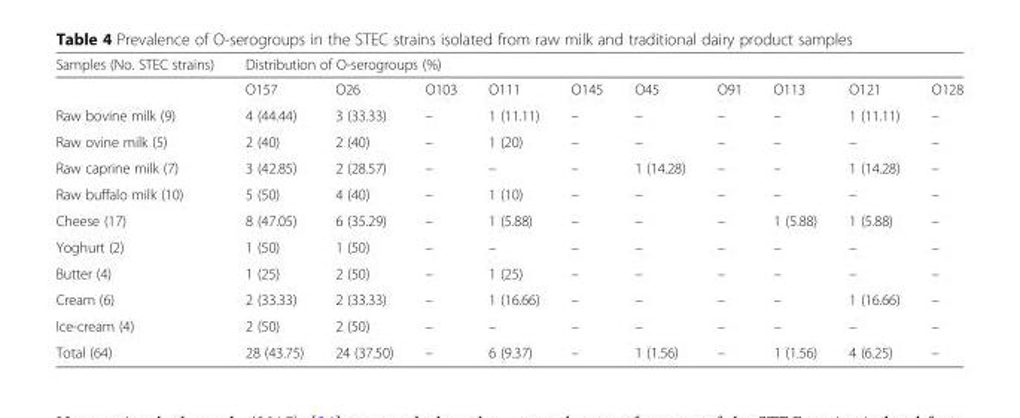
<table><thead><tr><td rowspan="2">Samples (No. STEC strains)</td><td colspan="10">Distribution of O-serogroups (%)</td></tr><tr><td>O157</td><td>O26</td><td>O103</td><td>O111</td><td>O145</td><td>O45</td><td>O91</td><td>O113</td><td>O121</td><td>O128</td></tr></thead><tbody><tr><td>Raw bovine milk (9)</td><td>4 (44.44)</td><td>3 (33.33)</td><td>–</td><td>1 (11.11)</td><td>–</td><td>–</td><td>–</td><td>–</td><td>1 (11.11)</td><td>–</td></tr><tr><td>Raw ovine milk (5)</td><td>2 (40)</td><td>2 (40)</td><td>–</td><td>1 (20)</td><td>–</td><td>–</td><td>–</td><td>–</td><td>–</td><td>–</td></tr><tr><td>Raw caprine milk (7)</td><td>3 (42.85)</td><td>2 (28.57)</td><td>–</td><td>–</td><td>–</td><td>1 (14.28)</td><td>–</td><td>–</td><td>1 (14.28)</td><td>–</td></tr><tr><td>Raw buffalo milk (10)</td><td>5 (50)</td><td>4 (40)</td><td>–</td><td>1 (10)</td><td>–</td><td>–</td><td>–</td><td>–</td><td>–</td><td>–</td></tr><tr><td>Cheese (17)</td><td>8 (47.05)</td><td>6 (35.29)</td><td>–</td><td>1 (5.88)</td><td>–</td><td>–</td><td>–</td><td>1 (5.88)</td><td>1 (5.88)</td><td>–</td></tr><tr><td>Yoghurt (2)</td><td>1 (50)</td><td>1 (50)</td><td>–</td><td>–</td><td>–</td><td>–</td><td>–</td><td>–</td><td>–</td><td>–</td></tr><tr><td>Butter (4)</td><td>1 (25)</td><td>2 (50)</td><td>–</td><td>1 (25)</td><td>–</td><td>–</td><td>–</td><td>–</td><td>–</td><td>–</td></tr><tr><td>Cream (6)</td><td>2 (33.33)</td><td>2 (33.33)</td><td>–</td><td>1 (16.66)</td><td>–</td><td>–</td><td>–</td><td>–</td><td>1 (16.66)</td><td>–</td></tr><tr><td>Ice-cream (4)</td><td>2 (50)</td><td>2 (50)</td><td>–</td><td>–</td><td>–</td><td>–</td><td>–</td><td>–</td><td>–</td><td>–</td></tr><tr><td>Total (64)</td><td>28 (43.75)</td><td>24 (37.50)</td><td>–</td><td>6 (9.37)</td><td>–</td><td>1 (1.56)</td><td>–</td><td>1 (1.56)</td><td>4 (6.25)</td><td>–</td></tr></tbody></table>